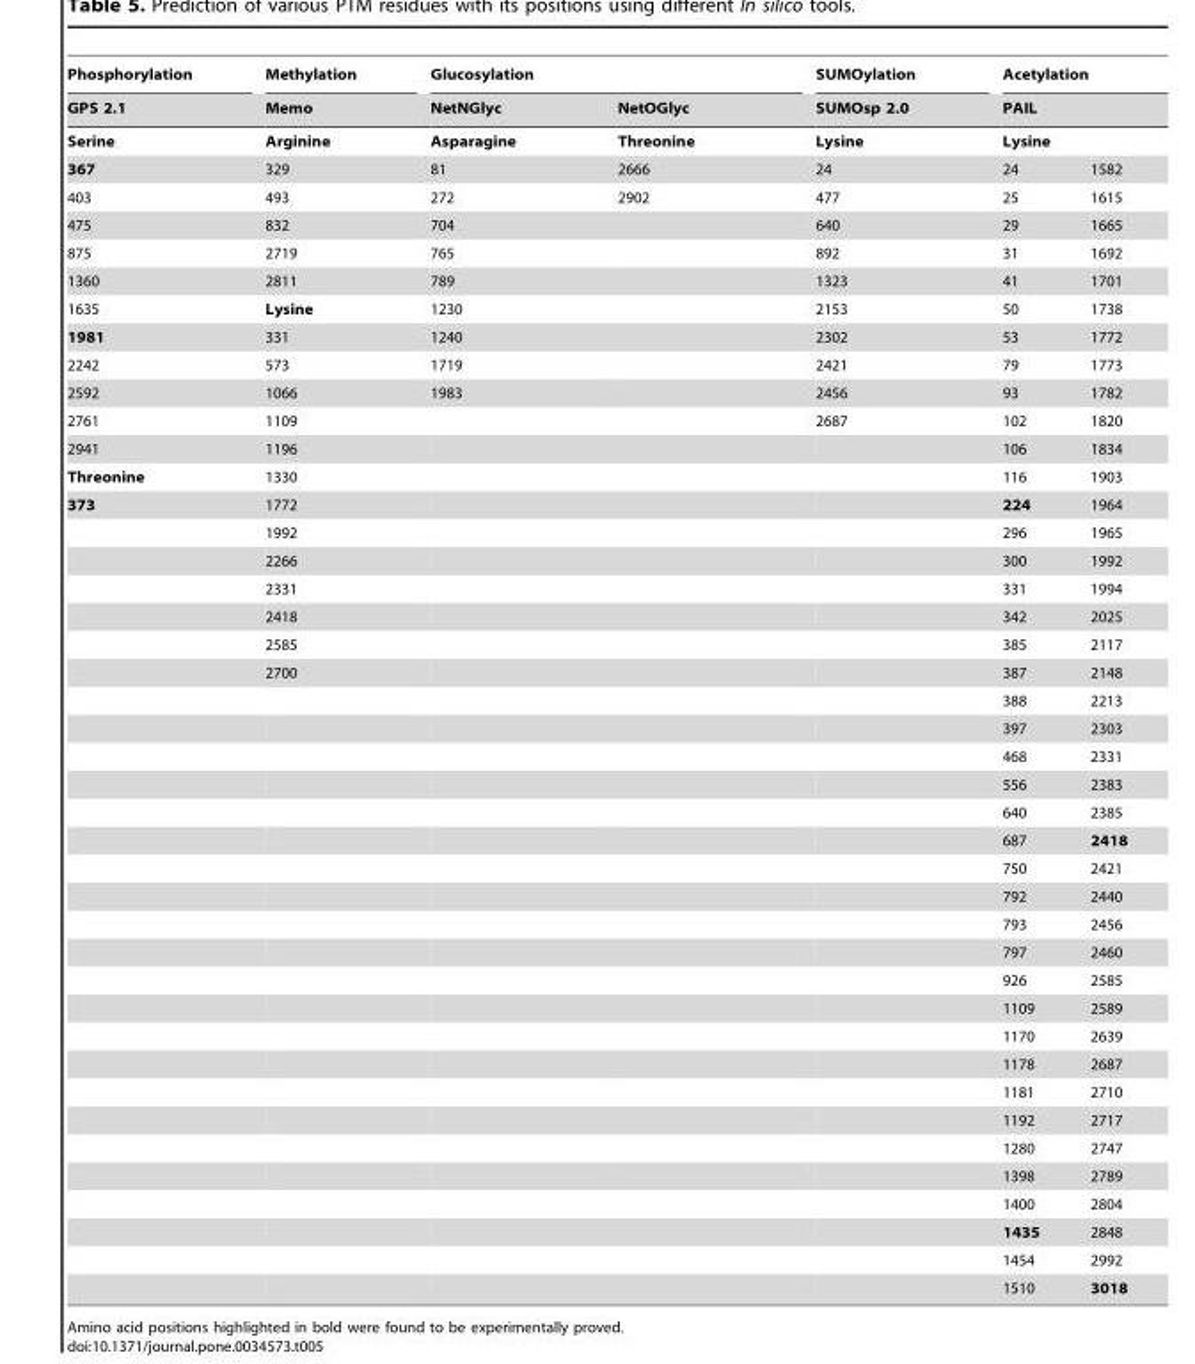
<table><thead><tr><td rowspan="4">Phosphorylation GPS 2.1 Serine 367</td><td rowspan="4">Methylation Memo Arginine 329</td><td colspan="2">Glucosylation</td><td rowspan="4">SUMOylation SUMOsp 2.0 Lysine 24</td><td rowspan="3" colspan="2">Acetylation PAIL Lysine</td></tr><tr><td rowspan="3">NetNGlyc Asparagine 81</td><td rowspan="3">NetOGlyc Threonine 2666</td></tr><tr></tr><tr><td>24</td><td>1582</td></tr></thead><tbody><tr><td>403</td><td>493</td><td>272</td><td>2902</td><td>477</td><td>25</td><td>1615</td></tr><tr><td>475</td><td>832</td><td>704</td><td></td><td>640</td><td>29</td><td>1665</td></tr><tr><td>875</td><td>2719</td><td>765</td><td></td><td>892</td><td>31</td><td>1692</td></tr><tr><td>1360</td><td>2811</td><td>789</td><td></td><td>1323</td><td>41</td><td>1701</td></tr><tr><td>1635</td><td>Lysine</td><td>1230</td><td></td><td>2153</td><td>50</td><td>1738</td></tr><tr><td>1981</td><td>331</td><td>1240</td><td></td><td>2302</td><td>53</td><td>1772</td></tr><tr><td>2242</td><td>573</td><td>1719</td><td></td><td>2421</td><td>79</td><td>1773</td></tr><tr><td>2592</td><td>1066</td><td>1983</td><td></td><td>2456</td><td>93</td><td>1782</td></tr><tr><td>2761</td><td>1109</td><td></td><td></td><td>2687</td><td>102</td><td>1820</td></tr><tr><td>2941</td><td>1196</td><td></td><td></td><td></td><td>106</td><td>1834</td></tr><tr><td>Threonine</td><td>1330</td><td></td><td></td><td></td><td>116</td><td>1903</td></tr><tr><td rowspan="29">373</td><td>1772</td><td></td><td></td><td></td><td>224</td><td>1964</td></tr><tr><td>1992</td><td></td><td></td><td></td><td>296</td><td>1965</td></tr><tr><td>2266</td><td></td><td></td><td></td><td>300</td><td>1992</td></tr><tr><td>2331</td><td></td><td></td><td></td><td>331</td><td>1994</td></tr><tr><td>2418</td><td></td><td></td><td></td><td>342</td><td>2025</td></tr><tr><td>2585</td><td></td><td></td><td></td><td>385</td><td>2117</td></tr><tr><td>2700</td><td></td><td></td><td></td><td>387</td><td>2148</td></tr><tr><td></td><td></td><td></td><td></td><td>388</td><td>2213</td></tr><tr><td></td><td></td><td></td><td></td><td>397</td><td>2303</td></tr><tr><td></td><td></td><td></td><td></td><td>468</td><td>2331</td></tr><tr><td></td><td></td><td></td><td></td><td>556</td><td>2383</td></tr><tr><td></td><td></td><td></td><td></td><td>640</td><td>2385</td></tr><tr><td></td><td></td><td></td><td></td><td>687</td><td>2418</td></tr><tr><td></td><td></td><td></td><td></td><td>750</td><td>2421</td></tr><tr><td></td><td></td><td></td><td></td><td>792</td><td>2440</td></tr><tr><td></td><td></td><td></td><td></td><td>793</td><td>2456</td></tr><tr><td></td><td></td><td></td><td></td><td>797</td><td>2460</td></tr><tr><td></td><td></td><td></td><td></td><td>926</td><td>2585</td></tr><tr><td></td><td></td><td></td><td></td><td>1109</td><td>2589</td></tr><tr><td></td><td></td><td></td><td></td><td>1170</td><td>2639</td></tr><tr><td></td><td></td><td></td><td></td><td>1178</td><td>2687</td></tr><tr><td></td><td></td><td></td><td></td><td>1181</td><td>2710</td></tr><tr><td></td><td></td><td></td><td></td><td>1192</td><td>2717</td></tr><tr><td></td><td></td><td></td><td></td><td>1280</td><td>2747</td></tr><tr><td></td><td></td><td></td><td></td><td>1398</td><td>2789</td></tr><tr><td></td><td></td><td></td><td></td><td>1400</td><td>2804</td></tr><tr><td></td><td></td><td></td><td></td><td>1435</td><td>2848</td></tr><tr><td></td><td></td><td></td><td></td><td>1454</td><td>2992</td></tr><tr><td></td><td></td><td></td><td></td><td>1510</td><td>3018</td></tr></tbody></table>